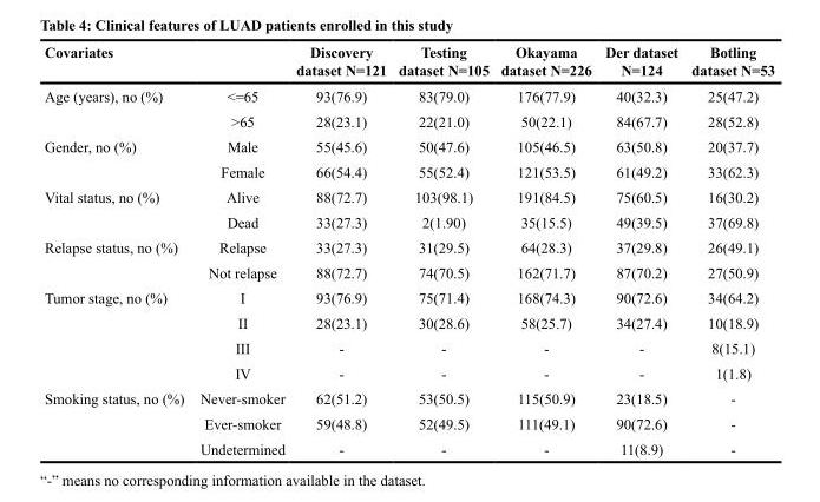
<table><thead><tr><td colspan="2">Covariates</td><td rowspan="2">Discovery dataset N=121 93(76.9)</td><td rowspan="2">Testing dataset N=105 83(79.0)</td><td rowspan="2">Okayama dataset N=226 176(77.9)</td><td rowspan="2">Der dataset N=124 40(32.3)</td><td rowspan="2">Botling dataset N=53 25(47.2)</td></tr><tr><td>Age (years), no (%)</td><td>&lt;=65</td></tr></thead><tbody><tr><td></td><td>&gt;65</td><td>28(23.1)</td><td>22(21.0)</td><td>50(22.1)</td><td>84(67.7)</td><td>28(52.8)</td></tr><tr><td rowspan="2">Gender, no (%)</td><td>Male</td><td>55(45.6)</td><td>50(47.6)</td><td>105(46.5)</td><td>63(50.8)</td><td>20(37.7)</td></tr><tr><td>Female</td><td>66(54.4)</td><td>55(52.4)</td><td>121(53.5)</td><td>61(49.2)</td><td>33(62.3)</td></tr><tr><td rowspan="2">Vital status, no (%)</td><td>Alive</td><td>88(72.7)</td><td>103(98.1)</td><td>191(84.5)</td><td>75(60.5)</td><td>16(30.2)</td></tr><tr><td>Dead</td><td>33(27.3)</td><td>2(1.90)</td><td>35(15.5)</td><td>49(39.5)</td><td>37(69.8)</td></tr><tr><td rowspan="2">Relapse status, no (%)</td><td>Relapse</td><td>33(27.3)</td><td>31(29.5)</td><td>64(28.3)</td><td>37(29.8)</td><td>26(49.1)</td></tr><tr><td>Not relapse</td><td>88(72.7)</td><td>74(70.5)</td><td>162(71.7)</td><td>87(70.2)</td><td>27(50.9)</td></tr><tr><td rowspan="4">Tumor stage, no (%)</td><td>I</td><td>93(76.9)</td><td>75(71.4)</td><td>168(74.3)</td><td>90(72.6)</td><td>34(64.2)</td></tr><tr><td>II</td><td>28(23.1)</td><td>30(28.6)</td><td>58(25.7)</td><td>34(27.4)</td><td>10(18.9)</td></tr><tr><td>III</td><td>-</td><td>-</td><td>-</td><td>-</td><td>8(15.1)</td></tr><tr><td>IV</td><td>-</td><td>-</td><td>-</td><td>-</td><td>1(1.8)</td></tr><tr><td rowspan="3">Smoking status, no (%)</td><td>Never-smoker</td><td>62(51.2)</td><td>53(50.5)</td><td>115(50.9)</td><td>23(18.5)</td><td>-</td></tr><tr><td>Ever-smoker</td><td>59(48.8)</td><td>52(49.5)</td><td>111(49.1)</td><td>90(72.6)</td><td>-</td></tr><tr><td>Undetermined</td><td>-</td><td>-</td><td>-</td><td>11(8.9)</td><td>-</td></tr></tbody></table>